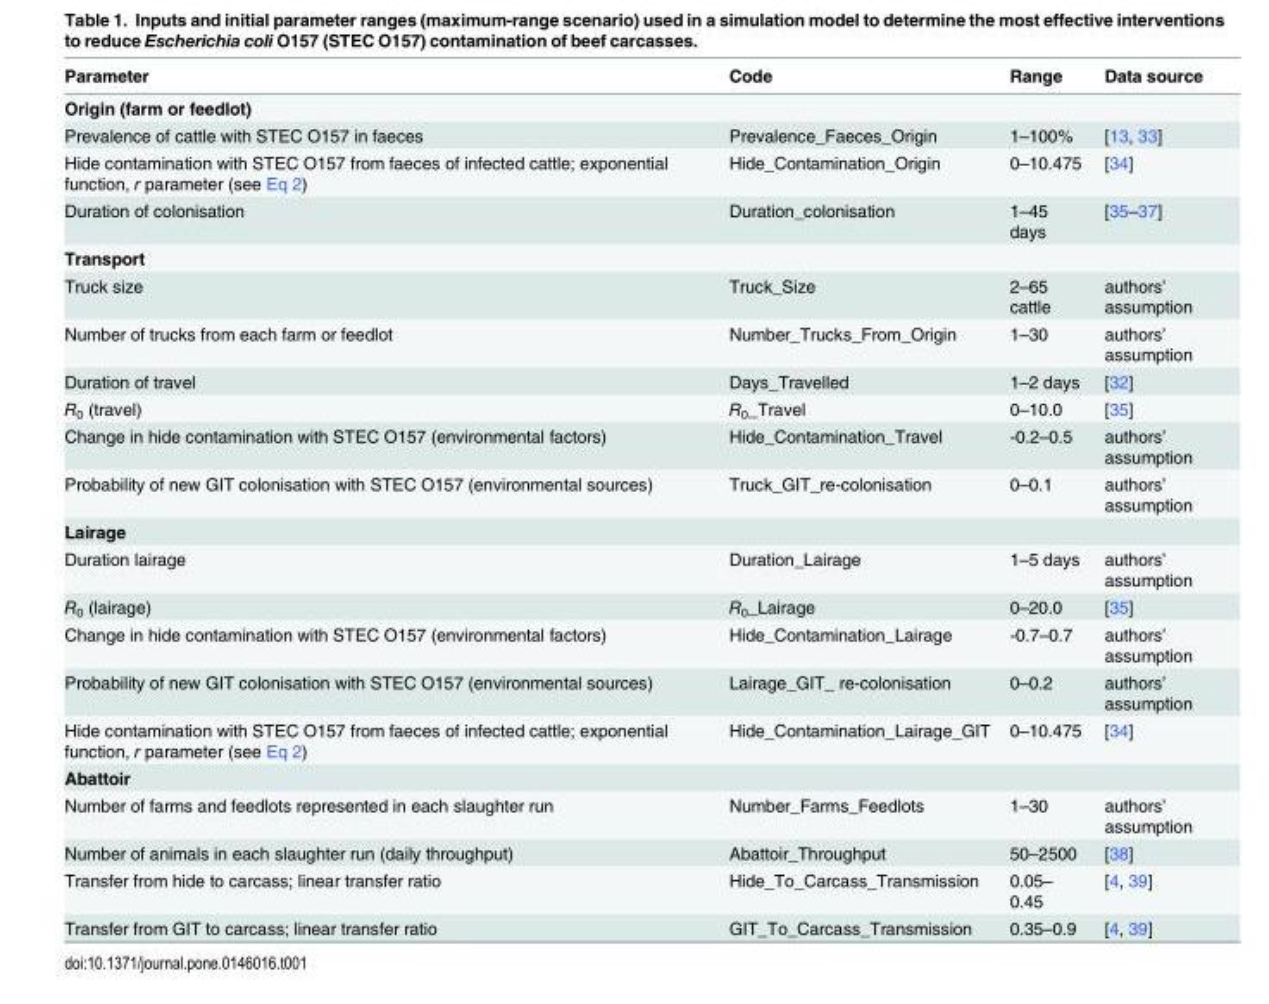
<table><thead><tr><td>Parameter</td><td>Code</td><td>Range</td><td>Data source</td></tr></thead><tbody><tr><td colspan="4">Origin (farm or feedlot)</td></tr><tr><td>Prevalence of cattle with STEC O157 in faeces</td><td>Prevalence_Faeces_Origin</td><td>1–100%</td><td>[13, 33]</td></tr><tr><td>Hide contamination with STEC O157 from faeces of infected cattle; exponential function, r parameter (see Eq 2)</td><td>Hide_Contamination_Origin</td><td>0–10.475</td><td>[34]</td></tr><tr><td>Duration of colonisation</td><td>Duration_colonisation</td><td>1–45 days</td><td>[35–37]</td></tr><tr><td colspan="4">Transport</td></tr><tr><td>Truck size</td><td>Truck_Size</td><td>2–65 cattle</td><td>authors’ assumption</td></tr><tr><td>Number of trucks from each farm or feedlot</td><td>Number_Trucks_From_Origin</td><td>1–30</td><td>authors’ assumption</td></tr><tr><td>Duration of travel</td><td>Days_Travelled</td><td>1–2 days</td><td>[32]</td></tr><tr><td>R<sub>0</sub> (travel)</td><td>R0_Travel</td><td>0–10.0</td><td>[35]</td></tr><tr><td>Change in hide contamination with STEC O157 (environmental factors)</td><td>Hide_Contamination_Travel</td><td>-0.2–0.5</td><td>authors’ assumption</td></tr><tr><td>Probability of new GIT colonisation with STEC O157 (environmental sources)</td><td>Truck_GIT_re-colonisation</td><td>0–0.1</td><td>authors’ assumption</td></tr><tr><td colspan="4">Lairage</td></tr><tr><td>Duration lairage</td><td>Duration_Lairage</td><td>1–5 days</td><td>authors’ assumption</td></tr><tr><td>R<sub>0</sub> (lairage)</td><td>R0_Lairage</td><td>0–20.0</td><td>[35]</td></tr><tr><td>Change in hide contamination with STEC O157 (environmental factors)</td><td>Hide_Contamination_Lairage</td><td>-0.7–0.7</td><td>authors’ assumption</td></tr><tr><td>Probability of new GIT colonisation with STEC O157 (environmental sources)</td><td>Lairage_GIT_ re-colonisation</td><td>0–0.2</td><td>authors’ assumption</td></tr><tr><td>Hide contamination with STEC O157 from faeces of infected cattle; exponential function, r parameter (see Eq 2)</td><td>Hide_Contamination_Lairage_GIT</td><td>0–10.475</td><td>[34]</td></tr><tr><td colspan="4">Abattoir</td></tr><tr><td>Number of farms and feedlots represented in each slaughter run</td><td>Number_Farms_Feedlots</td><td>1–30</td><td>authors’ assumption</td></tr><tr><td>Number of animals in each slaughter run (daily throughput)</td><td>Abattoir_Throughput</td><td>50–2500</td><td>[38]</td></tr><tr><td>Transfer from hide to carcass; linear transfer ratio</td><td>Hide_To_Carcass_Transmission</td><td>0.05– 0.45</td><td>[4, 39]</td></tr><tr><td>Transfer from GIT to carcass; linear transfer ratio</td><td>GIT_To_Carcass_Transmission</td><td>0.35–0.9</td><td>[4, 39]</td></tr></tbody></table>